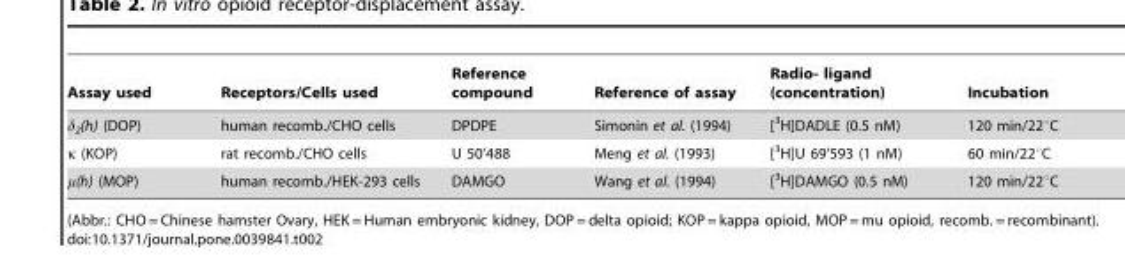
<table><thead><tr><td>Assay used</td><td>Receptors/Cells used</td><td>Reference compound</td><td>Reference of assay</td><td>Radio- ligand (concentration)</td><td>Incubation</td></tr></thead><tbody><tr><td>δ<sub>2</sub>(h) (DOP)</td><td>human recomb./CHO cells</td><td>DPDPE</td><td>Simonin et al. (1994)</td><td>[<sup>3</sup>H]DADLE (0.5 nM)</td><td>120 min/22°C</td></tr><tr><td>κ (KOP)</td><td>rat recomb./CHO cells</td><td>U 50’488</td><td>Meng et al. (1993)</td><td>[<sup>3</sup>H]U 69’593 (1 nM)</td><td>60 min/22°C</td></tr><tr><td>μ(h) (MOP)</td><td>human recomb./HEK-293 cells</td><td>DAMGO</td><td>Wang et al. (1994)</td><td>[<sup>3</sup>H]DAMGO (0.5 nM)</td><td>120 min/22°C</td></tr></tbody></table>